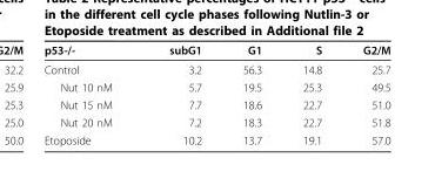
<table><thead><tr><td>p53-/-</td><td>subG1</td><td>G1</td><td>S</td><td>G2/M</td></tr></thead><tbody><tr><td>Control</td><td>3.2</td><td>56.3</td><td>14.8</td><td>25.7</td></tr><tr><td>Nut 10 nM</td><td>5.7</td><td>19.5</td><td>25.3</td><td>49.5</td></tr><tr><td>Nut 15 nM</td><td>7.7</td><td>18.6</td><td>22.7</td><td>51.0</td></tr><tr><td>Nut 20 nM</td><td>7.2</td><td>18.3</td><td>22.7</td><td>51.8</td></tr><tr><td>Etoposide</td><td>10.2</td><td>13.7</td><td>19.1</td><td>57.0</td></tr></tbody></table>